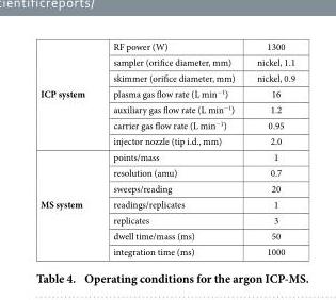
<table><tbody><tr><td rowspan="7">ICP system</td><td>RF power (W)</td><td>1300</td></tr><tr><td>sampler (orifice diameter, mm)</td><td>nickel, 1.1</td></tr><tr><td>skimmer (orifice diameter, mm)</td><td>nickel, 0.9</td></tr><tr><td>plasma gas flow rate (L min<sup>−1</sup>)</td><td>16</td></tr><tr><td>auxiliary gas flow rate (L min<sup>−1</sup>)</td><td>1.2</td></tr><tr><td>carrier gas flow rate (L min<sup>−1</sup>)</td><td>0.95</td></tr><tr><td>injector nozzle (tip i.d., mm)</td><td>2.0</td></tr><tr><td rowspan="7">MS system</td><td>points/mass</td><td>1</td></tr><tr><td>resolution (amu)</td><td>0.7</td></tr><tr><td>sweeps/reading</td><td>20</td></tr><tr><td>readings/replicates</td><td>1</td></tr><tr><td>replicates</td><td>3</td></tr><tr><td>dwell time/mass (ms)</td><td>50</td></tr><tr><td>integration time (ms)</td><td>1000</td></tr></tbody></table>